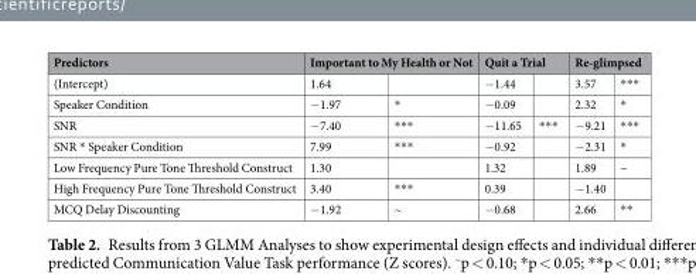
<table><thead><tr><td rowspan="2">Predictors (Intercept)</td><td colspan="2">Important to My Health or Not</td><td colspan="2">Quit a Trial</td><td colspan="2">Re-glimpsed</td></tr><tr><td>1.64</td><td></td><td>−1.44</td><td></td><td>3.57</td><td>***</td></tr></thead><tbody><tr><td>Speaker Condition</td><td>−1.97</td><td>*</td><td>−0.09</td><td></td><td>2.32</td><td>*</td></tr><tr><td>SNR</td><td>−7.40</td><td>***</td><td>−11.65</td><td>***</td><td>−9.21</td><td>***</td></tr><tr><td>SNR * Speaker Condition</td><td>7.99</td><td>***</td><td>−0.92</td><td></td><td>−2.31</td><td>*</td></tr><tr><td>Low Frequency Pure Tone Threshold Construct</td><td>1.30</td><td></td><td>1.32</td><td></td><td>1.89</td><td>~</td></tr><tr><td>High Frequency Pure Tone Threshold Construct</td><td>3.40</td><td>***</td><td>0.39</td><td></td><td>−1.40</td><td></td></tr><tr><td>MCQ Delay Discounting</td><td>−1.92</td><td>~</td><td>−0.68</td><td></td><td>2.66</td><td>**</td></tr></tbody></table>